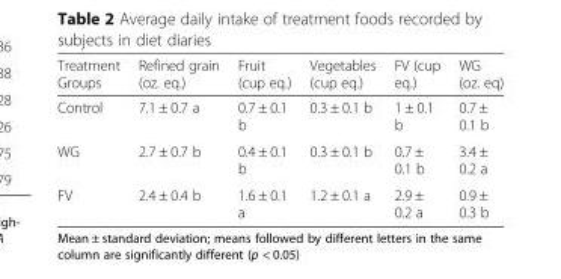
<table><thead><tr><td>Treatment Groups</td><td>Refined grain (oz. eq.)</td><td>Fruit (cup eq.)</td><td>Vegetables (cup eq.)</td><td>FV (cup eq.)</td><td>WG (oz. eq)</td></tr></thead><tbody><tr><td>Control</td><td>7.1 ± 0.7 a</td><td>0.7 ± 0.1 b</td><td>0.3 ± 0.1 b</td><td>1 ± 0.1 b</td><td>0.7 ± 0.1 b</td></tr><tr><td>WG</td><td>2.7 ± 0.7 b</td><td>0.4 ± 0.1 b</td><td>0.3 ± 0.1 b</td><td>0.7 ± 0.1 b</td><td>3.4 ± 0.2 a</td></tr><tr><td>FV</td><td>2.4 ± 0.4 b</td><td>1.6 ± 0.1 a</td><td>1.2 ± 0.1 a</td><td>2.9 ± 0.2 a</td><td>0.9 ± 0.3 b</td></tr></tbody></table>